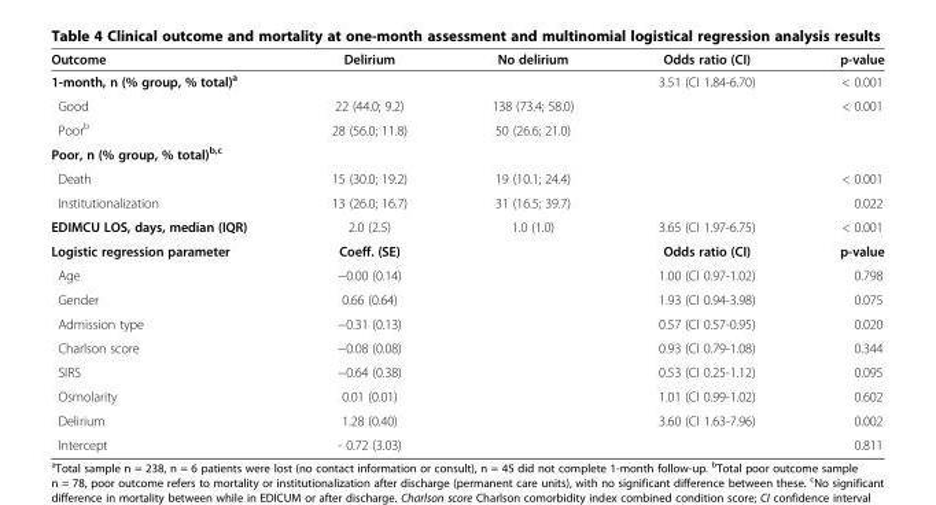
<table><thead><tr><td>Outcome</td><td>Delirium</td><td>No delirium</td><td>Odds ratio (CI)</td><td>p-value</td></tr></thead><tbody><tr><td>1-month, n (% group, % total)<sup>a</sup></td><td></td><td></td><td>3.51 (CI 1.84-6.70)</td><td>&lt; 0.001</td></tr><tr><td>Good</td><td>22 (44.0; 9.2)</td><td>138 (73.4; 58.0)</td><td></td><td>&lt; 0.001</td></tr><tr><td>Poor<sup>b</sup></td><td>28 (56.0; 11.8)</td><td>50 (26.6; 21.0)</td><td></td><td></td></tr><tr><td colspan="5">Poor, n (% group, % total)<sup>b,c</sup></td></tr><tr><td>Death</td><td>15 (30.0; 19.2)</td><td>19 (10.1; 24.4)</td><td></td><td>&lt; 0.001</td></tr><tr><td>Institutionalization</td><td>13 (26.0; 16.7)</td><td>31 (16.5; 39.7)</td><td></td><td>0.022</td></tr><tr><td>EDIMCU LOS, days, median (IQR)</td><td>2.0 (2.5)</td><td>1.0 (1.0)</td><td>3.65 (CI 1.97-6.75)</td><td>&lt; 0.001</td></tr><tr><td>Logistic regression parameter</td><td>Coeff. (SE)</td><td></td><td>Odds ratio (CI)</td><td>p-value</td></tr><tr><td>Age</td><td>−0.00 (0.14)</td><td></td><td>1.00 (CI 0.97-1.02)</td><td>0.798</td></tr><tr><td>Gender</td><td>0.66 (0.64)</td><td></td><td>1.93 (CI 0.94-3.98)</td><td>0.075</td></tr><tr><td>Admission type</td><td>−0.31 (0.13)</td><td></td><td>0.57 (CI 0.57-0.95)</td><td>0.020</td></tr><tr><td>Charlson score</td><td>−0.08 (0.08)</td><td></td><td>0.93 (CI 0.79-1.08)</td><td>0.344</td></tr><tr><td>SIRS</td><td>−0.64 (0.38)</td><td></td><td>0.53 (CI 0.25-1.12)</td><td>0.095</td></tr><tr><td>Osmolarity</td><td>0.01 (0.01)</td><td></td><td>1.01 (CI 0.99-1.02)</td><td>0.602</td></tr><tr><td>Delirium</td><td>1.28 (0.40)</td><td></td><td>3.60 (CI 1.63-7.96)</td><td>0.002</td></tr><tr><td>Intercept</td><td>- 0.72 (3.03)</td><td></td><td></td><td>0.811</td></tr></tbody></table>